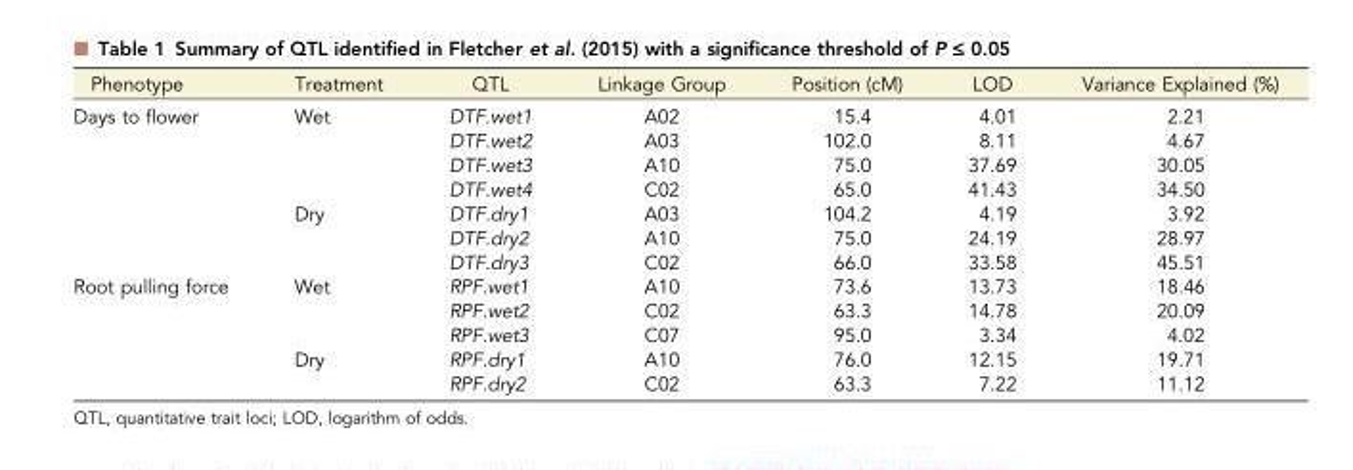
<table><thead><tr><td>Phenotype</td><td>Treatment</td><td>QTL</td><td>Linkage Group</td><td>Position (cM)</td><td>LOD</td><td>Variance Explained (%)</td></tr></thead><tbody><tr><td rowspan="7">Days to flower</td><td rowspan="4">Wet</td><td>DTF.wet1</td><td>A02</td><td>15.4</td><td>4.01</td><td>2.21</td></tr><tr><td>DTF.wet2</td><td>A03</td><td>102.0</td><td>8.11</td><td>4.67</td></tr><tr><td>DTF.wet3</td><td>A10</td><td>75.0</td><td>37.69</td><td>30.05</td></tr><tr><td>DTF.wet4</td><td>C02</td><td>65.0</td><td>41.43</td><td>34.50</td></tr><tr><td rowspan="3">Dry</td><td>DTF.dry1</td><td>A03</td><td>104.2</td><td>4.19</td><td>3.92</td></tr><tr><td>DTF.dry2</td><td>A10</td><td>75.0</td><td>24.19</td><td>28.97</td></tr><tr><td>DTF.dry3</td><td>C02</td><td>66.0</td><td>33.58</td><td>45.51</td></tr><tr><td rowspan="5">Root pulling force</td><td rowspan="3">Wet</td><td>RPF.wet1</td><td>A10</td><td>73.6</td><td>13.73</td><td>18.46</td></tr><tr><td>RPF.wet2</td><td>C02</td><td>63.3</td><td>14.78</td><td>20.09</td></tr><tr><td>RPF.wet3</td><td>C07</td><td>95.0</td><td>3.34</td><td>4.02</td></tr><tr><td rowspan="2">Dry</td><td>RPF.dry1</td><td>A10</td><td>76.0</td><td>12.15</td><td>19.71</td></tr><tr><td>RPF.dry2</td><td>C02</td><td>63.3</td><td>7.22</td><td>11.12</td></tr></tbody></table>